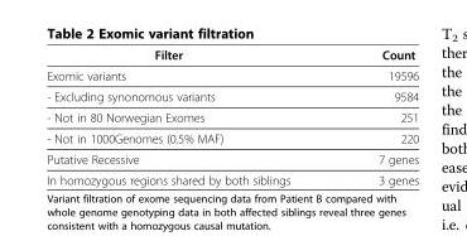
<table><thead><tr><td>Filter</td><td>Count</td></tr></thead><tbody><tr><td>Exomic variants</td><td>19596</td></tr><tr><td>- Excluding synonomous variants</td><td>9584</td></tr><tr><td>- Not in 80 Norwegian Exomes</td><td>251</td></tr><tr><td>- Not in 1000Genomes (0.5% MAF)</td><td>220</td></tr><tr><td>Putative Recessive</td><td>7 genes</td></tr><tr><td>In homozygous regions shared by both siblings</td><td>3 genes</td></tr></tbody></table>